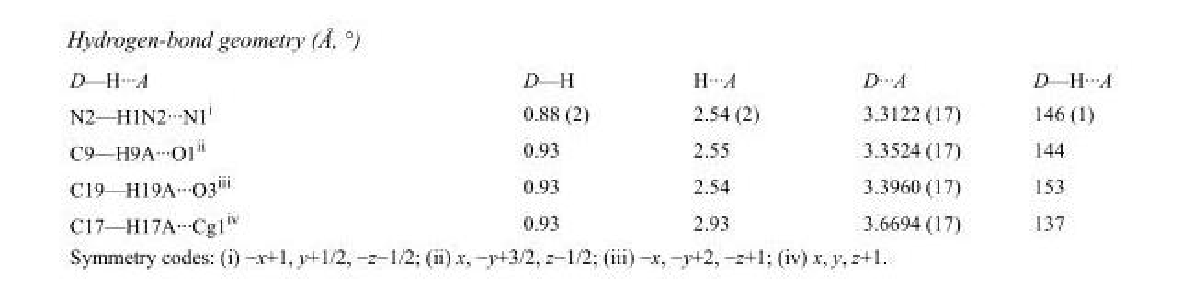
<table><tbody><tr><td>D—H···A</td><td>D—H</td><td>H···A</td><td>D···A</td><td>D—H···A</td></tr><tr><td>N2—H1N2···N1<sup>i</sup></td><td>0.88 (2)</td><td>2.54 (2)</td><td>3.3122 (17)</td><td>146 (1)</td></tr><tr><td>C9—H9A···O1<sup>ii</sup></td><td>0.93</td><td>2.55</td><td>3.3524 (17)</td><td>144</td></tr><tr><td>C19—H19A···O3<sup>iii</sup></td><td>0.93</td><td>2.54</td><td>3.3960 (17)</td><td>153</td></tr><tr><td>C17—H17A···Cg1<sup>iv</sup></td><td>0.93</td><td>2.93</td><td>3.6694 (17)</td><td>137</td></tr></tbody></table>